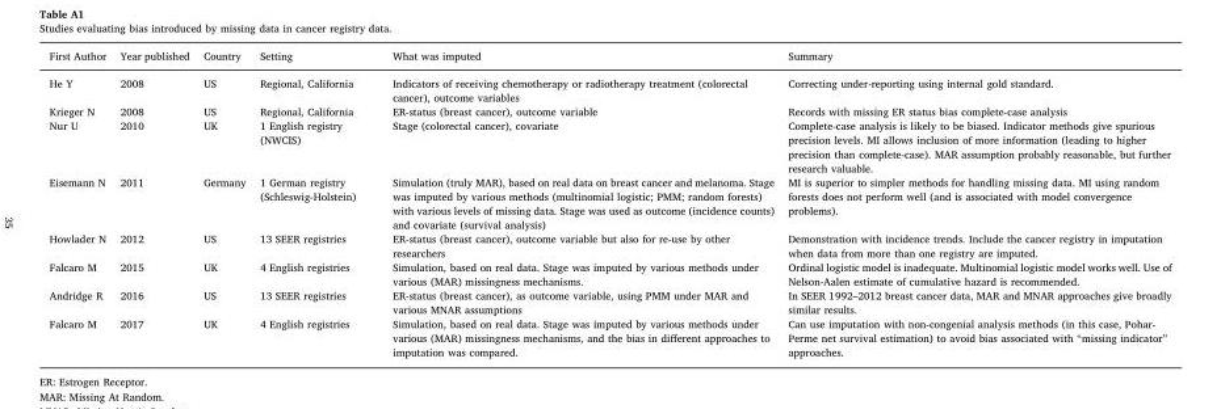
<table><thead><tr><td>First Author</td><td>Year published</td><td>Country</td><td>Setting</td><td>What was imputed</td><td>Summary</td></tr></thead><tbody><tr><td>He Y</td><td>2008</td><td>US</td><td>Regional, California</td><td>Indicators of receiving chemotherapy or radiotherapy treatment (colorectal cancer), outcome variables</td><td>Correcting under-reporting using internal gold standard.</td></tr><tr><td>Krieger N</td><td>2008</td><td>US</td><td>Regional, California</td><td>ER-status (breast cancer), outcome variable</td><td>Records with missing ER status bias complete-case analysis</td></tr><tr><td>Nur U</td><td>2010</td><td>UK</td><td>1 English registry (NWCIS)</td><td>Stage (colorectal cancer), covariate</td><td>Complete-case analysis is likely to be biased. Indicator methods give spurious precision levels. MI allows inclusion of more information (leading to higher precision than complete-case). MAR assumption probably reasonable, but further research valuable.</td></tr><tr><td>Eisemann N</td><td>2011</td><td>Germany</td><td>1 German registry (Schleswig-Holstein)</td><td>Simulation (truly MAR), based on real data on breast cancer and melanoma. Stage was imputed by various methods (multinomial logistic; PMM; random forests) with various levels of missing data. Stage was used as outcome (incidence counts) and covariate (survival analysis)</td><td>MI is superior to simpler methods for handling missing data. MI using random forests does not perform well (and is associated with model convergence problems).</td></tr><tr><td>Howlader N</td><td>2012</td><td>US</td><td>13 SEER registries</td><td>ER-status (breast cancer), outcome variable but also for re-use by other researchers</td><td>Demonstration with incidence trends. Include the cancer registry in imputation when data from more than one registry are imputed.</td></tr><tr><td>Falcaro M</td><td>2015</td><td>UK</td><td>4 English registries</td><td>Simulation, based on real data. Stage was imputed by various methods under various (MAR) missingness mechanisms.</td><td>Ordinal logistic model is inadequate. Multinomial logistic model works well. Use of Nelson-Aalen estimate of cumulative hazard is recommended.</td></tr><tr><td>Andridge R</td><td>2016</td><td>US</td><td>13 SEER registries</td><td>ER-status (breast cancer), as outcome variable, using PMM under MAR and various MNAR assumptions</td><td>In SEER 1992–2012 breast cancer data, MAR and MNAR approaches give broadly similar results.</td></tr><tr><td>Falcaro M</td><td>2017</td><td>UK</td><td>4 English registries</td><td>Simulation, based on real data. Stage was imputed by various methods under various (MAR) missingness mechanisms, and the bias in different approaches to imputation was compared.</td><td>Can use imputation with non-congenial analysis methods (in this case, Pohar- Perme net survival estimation) to avoid bias associated with “missing indicator” approaches.</td></tr></tbody></table>